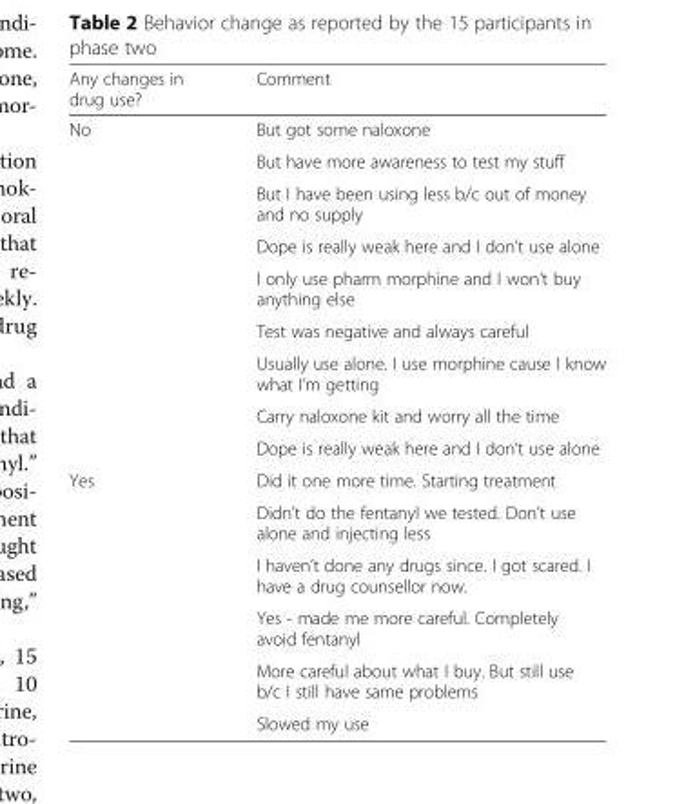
<table><thead><tr><td>Any changes in drug use?</td><td>Comment</td></tr></thead><tbody><tr><td rowspan="9">No</td><td>But got some naloxone</td></tr><tr><td>But have more awareness to test my stuff</td></tr><tr><td>But I have been using less b/c out of money and no supply</td></tr><tr><td>Dope is really weak here and I don’t use alone</td></tr><tr><td>I only use pharm morphine and I won’t buy anything else</td></tr><tr><td>Test was negative and always careful</td></tr><tr><td>Usually use alone. I use morphine cause I know what I’m getting</td></tr><tr><td>Carry naloxone kit and worry all the time</td></tr><tr><td>Dope is really weak here and I don’t use alone</td></tr><tr><td rowspan="6">Yes</td><td>Did it one more time. Starting treatment</td></tr><tr><td>Didn’t do the fentanyl we tested. Don’t use alone and injecting less</td></tr><tr><td>I haven’t done any drugs since. I got scared. I have a drug counsellor now.</td></tr><tr><td>Yes - made me more careful. Completely avoid fentanyl</td></tr><tr><td>More careful about what I buy. But still use b/c I still have same problems</td></tr><tr><td>Slowed my use</td></tr></tbody></table>